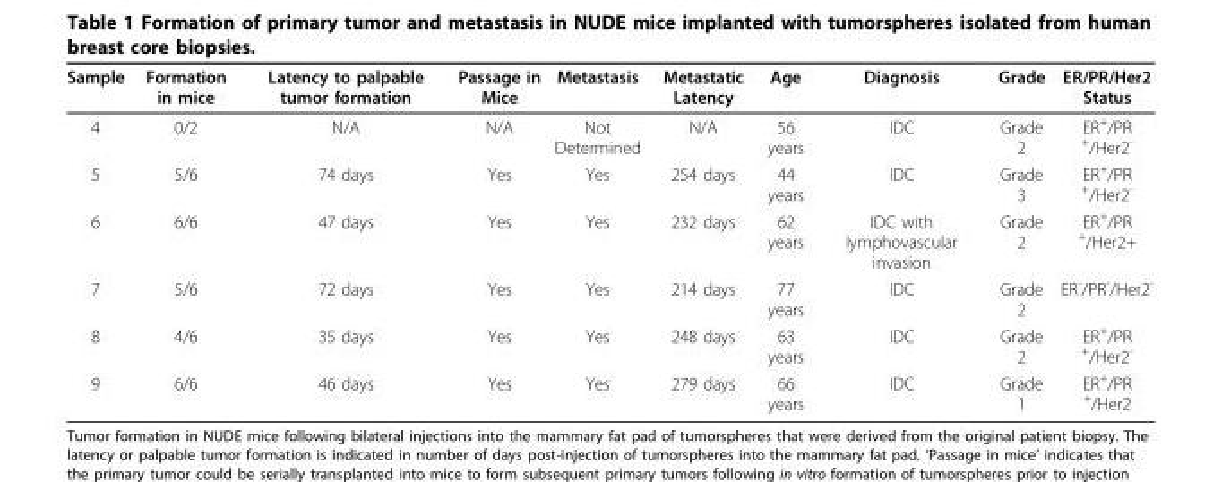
<table><thead><tr><td>Sample</td><td>Formation in mice</td><td>Latency to palpable tumor formation</td><td>Passage in Mice</td><td>Metastasis</td><td>Metastatic Latency</td><td>Age</td><td>Diagnosis</td><td>Grade</td><td>ER/PR/Her2 Status</td></tr></thead><tbody><tr><td>4</td><td>0/2</td><td>N/A</td><td>N/A</td><td>Not Determined</td><td>N/A</td><td>56 years</td><td>IDC</td><td>Grade 2</td><td>ER<sup>+</sup>/PR <sup>+</sup>/Her2<sup>-</sup></td></tr><tr><td>5</td><td>5/6</td><td>74 days</td><td>Yes</td><td>Yes</td><td>254 days</td><td>44 years</td><td>IDC</td><td>Grade 3</td><td>ER<sup>+</sup>/PR <sup>+</sup>/Her2<sup>-</sup></td></tr><tr><td>6</td><td>6/6</td><td>47 days</td><td>Yes</td><td>Yes</td><td>232 days</td><td>62 years</td><td>IDC with lymphovascular invasion</td><td>Grade 2</td><td>ER<sup>+</sup>/PR <sup>+</sup>/Her2+</td></tr><tr><td>7</td><td>5/6</td><td>72 days</td><td>Yes</td><td>Yes</td><td>214 days</td><td>77 years</td><td>IDC</td><td>Grade 2</td><td>ER<sup>-</sup>/PR<sup>-</sup>/Her2<sup>-</sup></td></tr><tr><td>8</td><td>4/6</td><td>35 days</td><td>Yes</td><td>Yes</td><td>248 days</td><td>63 years</td><td>IDC</td><td>Grade 2</td><td>ER<sup>+</sup>/PR <sup>+</sup>/Her2<sup>-</sup></td></tr><tr><td>9</td><td>6/6</td><td>46 days</td><td>Yes</td><td>Yes</td><td>279 days</td><td>66 years</td><td>IDC</td><td>Grade 1</td><td>ER<sup>+</sup>/PR <sup>+</sup>/Her2</td></tr></tbody></table>